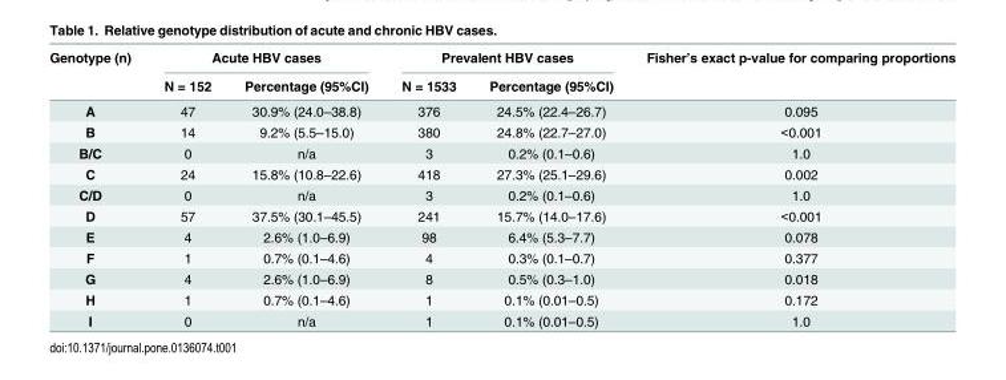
<table><thead><tr><td rowspan="2">Genotype (n)</td><td colspan="2">Acute HBV cases</td><td colspan="2">Prevalent HBV cases</td><td rowspan="2">Fisher’s exact p-value for comparing proportions</td></tr><tr><td>N = 152</td><td>Percentage (95%CI)</td><td>N = 1533</td><td>Percentage (95%CI)</td></tr></thead><tbody><tr><td>A</td><td>47</td><td>30.9% (24.0–38.8)</td><td>376</td><td>24.5% (22.4–26.7)</td><td>0.095</td></tr><tr><td>B</td><td>14</td><td>9.2% (5.5–15.0)</td><td>380</td><td>24.8% (22.7–27.0)</td><td>&lt;0.001</td></tr><tr><td>B/C</td><td>0</td><td>n/a</td><td>3</td><td>0.2% (0.1–0.6)</td><td>1.0</td></tr><tr><td>C</td><td>24</td><td>15.8% (10.8–22.6)</td><td>418</td><td>27.3% (25.1–29.6)</td><td>0.002</td></tr><tr><td>C/D</td><td>0</td><td>n/a</td><td>3</td><td>0.2% (0.1–0.6)</td><td>1.0</td></tr><tr><td>D</td><td>57</td><td>37.5% (30.1–45.5)</td><td>241</td><td>15.7% (14.0–17.6)</td><td>&lt;0.001</td></tr><tr><td>E</td><td>4</td><td>2.6% (1.0–6.9)</td><td>98</td><td>6.4% (5.3–7.7)</td><td>0.078</td></tr><tr><td>F</td><td>1</td><td>0.7% (0.1–4.6)</td><td>4</td><td>0.3% (0.1–0.7)</td><td>0.377</td></tr><tr><td>G</td><td>4</td><td>2.6% (1.0–6.9)</td><td>8</td><td>0.5% (0.3–1.0)</td><td>0.018</td></tr><tr><td>H</td><td>1</td><td>0.7% (0.1–4.6)</td><td>1</td><td>0.1% (0.01–0.5)</td><td>0.172</td></tr><tr><td>I</td><td>0</td><td>n/a</td><td>1</td><td>0.1% (0.01–0.5)</td><td>1.0</td></tr></tbody></table>